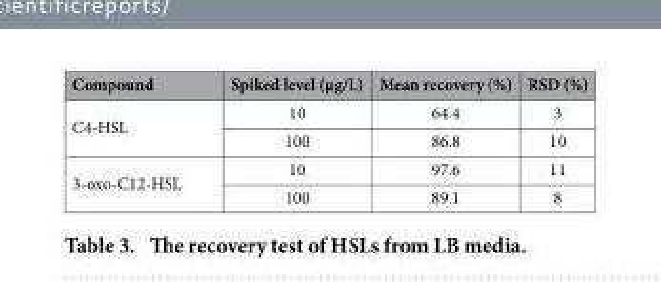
<table><thead><tr><td>Compound</td><td>Spiked level (μg/L)</td><td>Mean recovery (%)</td><td>RSD (%)</td></tr></thead><tbody><tr><td rowspan="2">C4-HSL</td><td>10</td><td>64.4</td><td>3</td></tr><tr><td>100</td><td>86.8</td><td>10</td></tr><tr><td rowspan="2">3-oxo-C12-HSL</td><td>10</td><td>97.6</td><td>11</td></tr><tr><td>100</td><td>89.1</td><td>8</td></tr></tbody></table>